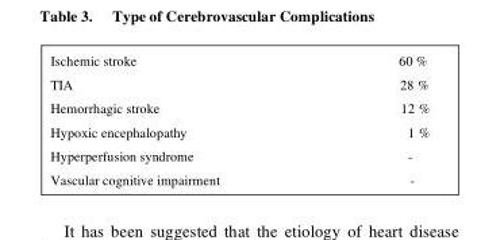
<table><tbody><tr><td>Ischemic stroke</td><td>60 %</td></tr><tr><td>TIA</td><td>28 %</td></tr><tr><td>Hemorrhagic stroke</td><td>12 %</td></tr><tr><td>Hypoxic encephalopathy</td><td>1 %</td></tr><tr><td>Hyperperfusion syndrome</td><td>-</td></tr><tr><td>Vascular cognitive impairment</td><td>-</td></tr></tbody></table>